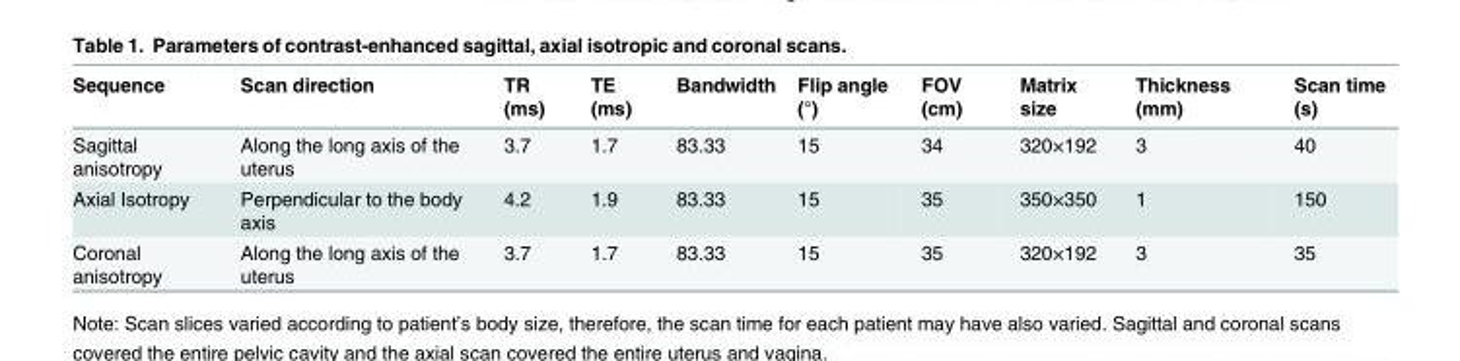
<table><thead><tr><td>Sequence</td><td>Scan direction</td><td>TR (ms)</td><td>TE (ms)</td><td>Bandwidth</td><td>Flip angle (°)</td><td>FOV (cm)</td><td>Matrix size</td><td>Thickness (mm)</td><td>Scan time (s)</td></tr></thead><tbody><tr><td>Sagittal anisotropy</td><td>Along the long axis of the uterus</td><td>3.7</td><td>1.7</td><td>83.33</td><td>15</td><td>34</td><td>320×192</td><td>3</td><td>40</td></tr><tr><td>Axial Isotropy</td><td>Perpendicular to the body axis</td><td>4.2</td><td>1.9</td><td>83.33</td><td>15</td><td>35</td><td>350×350</td><td>1</td><td>150</td></tr><tr><td>Coronal anisotropy</td><td>Along the long axis of the uterus</td><td>3.7</td><td>1.7</td><td>83.33</td><td>15</td><td>35</td><td>320×192</td><td>3</td><td>35</td></tr></tbody></table>